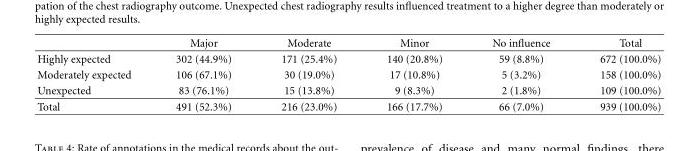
<table><thead><tr><td></td><td>Major</td><td>Moderate</td><td>Minor</td><td>No influence</td><td>Total</td></tr></thead><tbody><tr><td>Highly expected</td><td>302 (44.9%)</td><td>171 (25.4%)</td><td>140 (20.8%)</td><td>59 (8.8%)</td><td>672 (100.0%)</td></tr><tr><td>Moderately expected</td><td>106 (67.1%)</td><td>30 (19.0%)</td><td>17 (10.8%)</td><td>5 (3.2%)</td><td>158 (100.0%)</td></tr><tr><td>Unexpected</td><td>83 (76.1%)</td><td>15 (13.8%)</td><td>9 (8.3%)</td><td>2 (1.8%)</td><td>109 (100.0%)</td></tr><tr><td>Total</td><td>491 (52.3%)</td><td>216 (23.0%)</td><td>166 (17.7%)</td><td>66 (7.0%)</td><td>939 (100.0%)</td></tr></tbody></table>